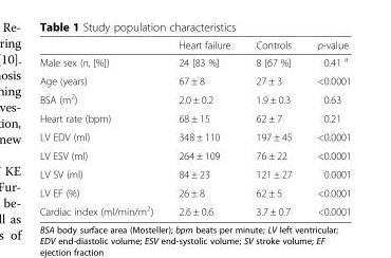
<table><thead><tr><td></td><td>Heart failure</td><td>Controls</td><td>p-value</td></tr></thead><tbody><tr><td>Male sex (n, [%])</td><td>24 [83 %]</td><td>8 [67 %]</td><td>0.41 <sup>a</sup></td></tr><tr><td>Age (years)</td><td>67 ± 8</td><td>27 ± 3</td><td>&lt;0.0001</td></tr><tr><td>BSA (m<sup>2</sup>)</td><td>2.0 ± 0.2</td><td>1.9 ± 0.3</td><td>0.63</td></tr><tr><td>Heart rate (bpm)</td><td>68 ± 15</td><td>62 ± 7</td><td>0.21</td></tr><tr><td>LV EDV (ml)</td><td>348 ± 110</td><td>197 ± 45</td><td>&lt;0.0001</td></tr><tr><td>LV ESV (ml)</td><td>264 ± 109</td><td>76 ± 22</td><td>&lt;0.0001</td></tr><tr><td>LV SV (ml)</td><td>84 ± 23</td><td>121 ± 27</td><td>0.0001</td></tr><tr><td>LV EF (%)</td><td>26 ± 8</td><td>62 ± 5</td><td>&lt;0.0001</td></tr><tr><td>Cardiac index (ml/min/m<sup>2</sup>)</td><td>2.6 ± 0.6</td><td>3.7 ± 0.7</td><td>&lt;0.0001</td></tr></tbody></table>